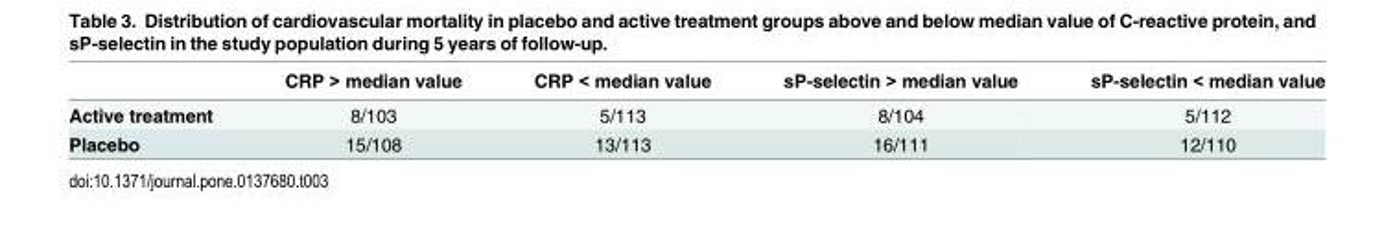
<table><thead><tr><td></td><td>CRP &gt; median value</td><td>CRP &lt; median value</td><td>sP-selectin &gt; median value</td><td>sP-selectin &lt; median value</td></tr></thead><tbody><tr><td>Active treatment</td><td>8/103</td><td>5/113</td><td>8/104</td><td>5/112</td></tr><tr><td>Placebo</td><td>15/108</td><td>13/113</td><td>16/111</td><td>12/110</td></tr></tbody></table>